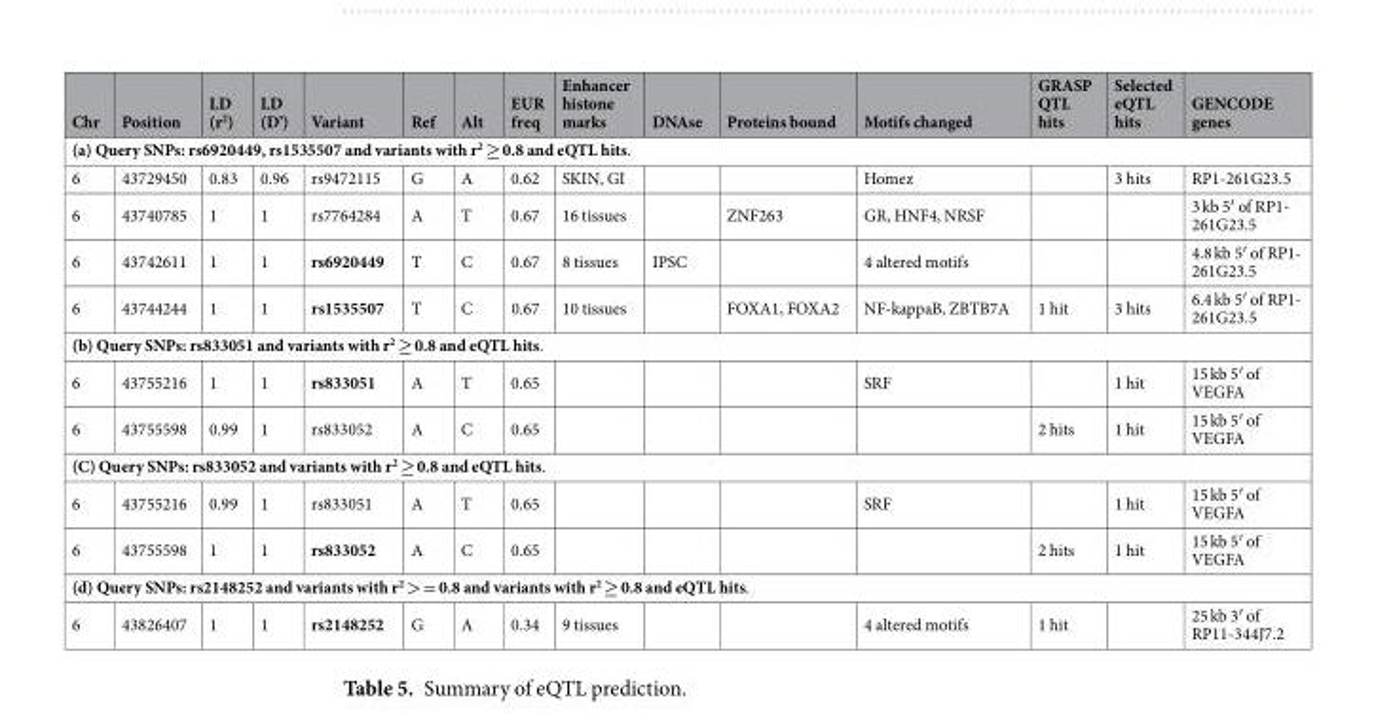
<table><thead><tr><td>Chr</td><td>Position</td><td>LD (r<sup>2</sup>)</td><td>LD (D’)</td><td>Variant</td><td>Ref</td><td>Alt</td><td>EUR freq</td><td>Enhancer histone marks</td><td>DNAse</td><td>Proteins bound</td><td>Motifs changed</td><td>GRASP QTL hits</td><td>Selected eQTL hits</td><td>GENCODE genes</td></tr></thead><tbody><tr><td colspan="15">(a) Query SNPs: rs6920449, rs1535507 and variants with r<sup>2</sup> ≥ 0.8 and eQTL hits.</td></tr><tr><td>6</td><td>43729450</td><td>0.83</td><td>0.96</td><td>rs9472115</td><td>G</td><td>A</td><td>0.62</td><td>SKIN, GI</td><td></td><td></td><td>Homez</td><td></td><td>3 hits</td><td>RP1-261G23.5</td></tr><tr><td>6</td><td>43740785</td><td>1</td><td>1</td><td>rs7764284</td><td>A</td><td>T</td><td>0.67</td><td>16 tissues</td><td></td><td>ZNF263</td><td>GR, HNF4, NRSF</td><td></td><td></td><td>3 kb 5′ of RP1- 261G23.5</td></tr><tr><td>6</td><td>43742611</td><td>1</td><td>1</td><td>rs6920449</td><td>T</td><td>C</td><td>0.67</td><td>8 tissues</td><td>IPSC</td><td></td><td>4 altered motifs</td><td></td><td></td><td>4.8 kb 5′ of RP1- 261G23.5</td></tr><tr><td>6</td><td>43744244</td><td>1</td><td>1</td><td>rs1535507</td><td>T</td><td>C</td><td>0.67</td><td>10 tissues</td><td></td><td>FOXA1, FOXA2</td><td>NF-kappaB, ZBTB7A</td><td>1 hit</td><td>3 hits</td><td>6.4 kb 5′ of RP1- 261G23.5</td></tr><tr><td colspan="15">(b) Query SNPs: rs833051 and variants with r<sup>2</sup> ≥ 0.8 and eQTL hits.</td></tr><tr><td>6</td><td>43755216</td><td>1</td><td>1</td><td>rs833051</td><td>A</td><td>T</td><td>0.65</td><td></td><td></td><td></td><td>SRF</td><td></td><td>1 hit</td><td>15 kb 5′ of VEGFA</td></tr><tr><td>6</td><td>43755598</td><td>0.99</td><td>1</td><td>rs833052</td><td>A</td><td>C</td><td>0.65</td><td></td><td></td><td></td><td></td><td>2 hits</td><td>1 hit</td><td>15 kb 5′ of VEGFA</td></tr><tr><td colspan="15">(C) Query SNPs: rs833052 and variants with r<sup>2</sup> ≥ 0.8 and eQTL hits.</td></tr><tr><td>6</td><td>43755216</td><td>0.99</td><td>1</td><td>rs833051</td><td>A</td><td>T</td><td>0.65</td><td></td><td></td><td></td><td>SRF</td><td></td><td>1 hit</td><td>15 kb 5′ of VEGFA</td></tr><tr><td>6</td><td>43755598</td><td>1</td><td>1</td><td>rs833052</td><td>A</td><td>C</td><td>0.65</td><td></td><td></td><td></td><td></td><td>2 hits</td><td>1 hit</td><td>15 kb 5′ of VEGFA</td></tr><tr><td colspan="15">(d) Query SNPs: rs2148252 and variants with r<sup>2</sup> &gt; = 0.8 and variants with r<sup>2</sup> ≥ 0.8 and eQTL hits.</td></tr><tr><td>6</td><td>43826407</td><td>1</td><td>1</td><td>rs2148252</td><td>G</td><td>A</td><td>0.34</td><td>9 tissues</td><td></td><td></td><td>4 altered motifs</td><td>1 hit</td><td></td><td>25 kb 3′ of RP11-344J7.2</td></tr></tbody></table>